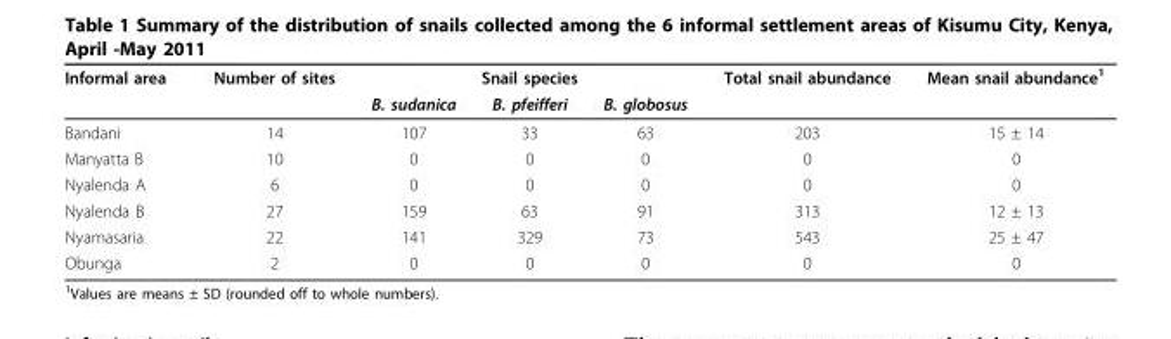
<table><thead><tr><td rowspan="2">Informal area</td><td rowspan="2">Number of sites</td><td colspan="3">Snail species</td><td rowspan="2">Total snail abundance</td><td rowspan="2">Mean snail abundance<sup>1</sup></td></tr><tr><td>B. sudanica</td><td>B. pfeifferi</td><td>B. globosus</td></tr></thead><tbody><tr><td>Bandani</td><td>14</td><td>107</td><td>33</td><td>63</td><td>203</td><td>15 ± 14</td></tr><tr><td>Manyatta B</td><td>10</td><td>0</td><td>0</td><td>0</td><td>0</td><td>0</td></tr><tr><td>Nyalenda A</td><td>6</td><td>0</td><td>0</td><td>0</td><td>0</td><td>0</td></tr><tr><td>Nyalenda B</td><td>27</td><td>159</td><td>63</td><td>91</td><td>313</td><td>12 ± 13</td></tr><tr><td>Nyamasaria</td><td>22</td><td>141</td><td>329</td><td>73</td><td>543</td><td>25 ± 47</td></tr><tr><td>Obunga</td><td>2</td><td>0</td><td>0</td><td>0</td><td>0</td><td>0</td></tr></tbody></table>